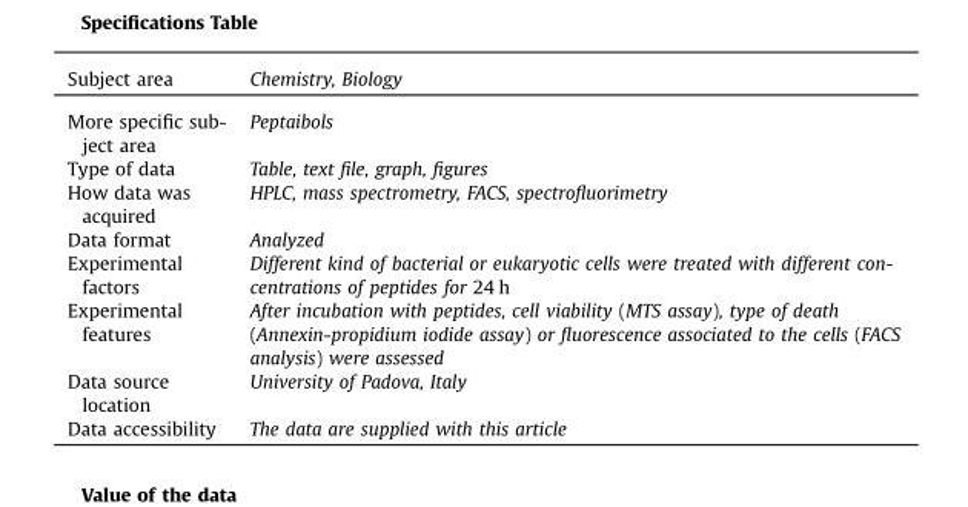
<table><thead><tr><td>Subject area</td><td>Chemistry, Biology</td></tr></thead><tbody><tr><td>More specific sub- ject area</td><td>Peptaibols</td></tr><tr><td>Type of data</td><td>Table, text file, graph, figures</td></tr><tr><td>How data was acquired</td><td>HPLC, mass spectrometry, FACS, spectrofluorimetry</td></tr><tr><td>Data format</td><td>Analyzed</td></tr><tr><td>Experimental factors</td><td>Different kind of bacterial or eukaryotic cells were treated with different con- centrations of peptides for 24 h</td></tr><tr><td>Experimental features</td><td>After incubation with peptides, cell viability (MTS assay), type of death (Annexin-propidium iodide assay) or fluorescence associated to the cells (FACS analysis) were assessed</td></tr><tr><td>Data source location</td><td>University of Padova, Italy</td></tr><tr><td>Data accessibility</td><td>The data are supplied with this article</td></tr></tbody></table>